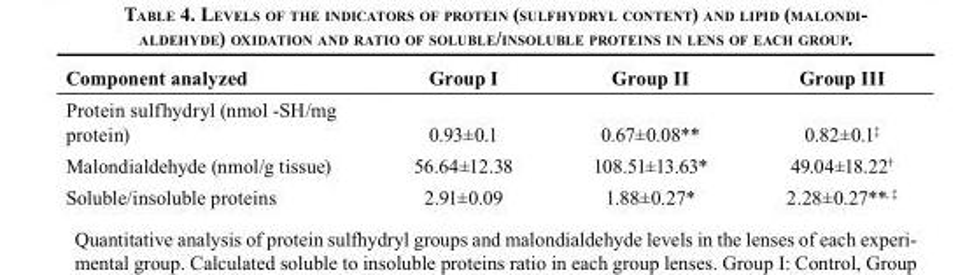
<table><thead><tr><td>Component analyzed</td><td>Group I</td><td>Group II</td><td>Group III</td></tr></thead><tbody><tr><td>Protein sulfhydryl (nmol -SH/mg protein)</td><td>0.93±0.1</td><td>0.67±0.08**</td><td>0.82±0.1<sup>‡</sup></td></tr><tr><td>Malondialdehyde (nmol/g tissue)</td><td>56.64±12.38</td><td>108.51±13.63*</td><td>49.04±18.22<sup>†</sup></td></tr><tr><td>Soluble/insoluble proteins</td><td>2.91±0.09</td><td>1.88±0.27*</td><td>2.28±0.27**<sup>, ‡</sup></td></tr></tbody></table>